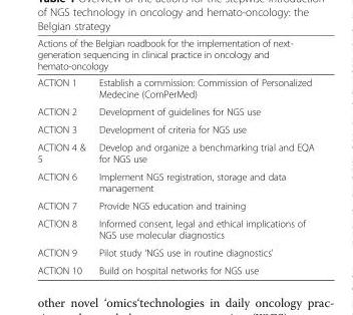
<table><thead><tr><td colspan="2">Actions of the Belgian roadbook for the implementation of next- generation sequencing in clinical practice in oncology and hemato-oncology</td></tr><tr><td>ACTION 1</td><td>Establish a commission: Commission of Personalized Medecine (ComPerMed)</td></tr></thead><tbody><tr><td>ACTION 2</td><td>Development of guidelines for NGS use</td></tr><tr><td>ACTION 3</td><td>Development of criteria for NGS use</td></tr><tr><td>ACTION 4 &amp; 5</td><td>Develop and organize a benchmarking trial and EQA for NGS use</td></tr><tr><td>ACTION 6</td><td>Implement NGS registration, storage and data management</td></tr><tr><td>ACTION 7</td><td>Provide NGS education and training</td></tr><tr><td>ACTION 8</td><td>Informed consent, legal and ethical implications of NGS use molecular diagnostics</td></tr><tr><td>ACTION 9</td><td>Pilot study ‘NGS use in routine diagnostics’</td></tr><tr><td>ACTION 10</td><td>Build on hospital networks for NGS use</td></tr></tbody></table>